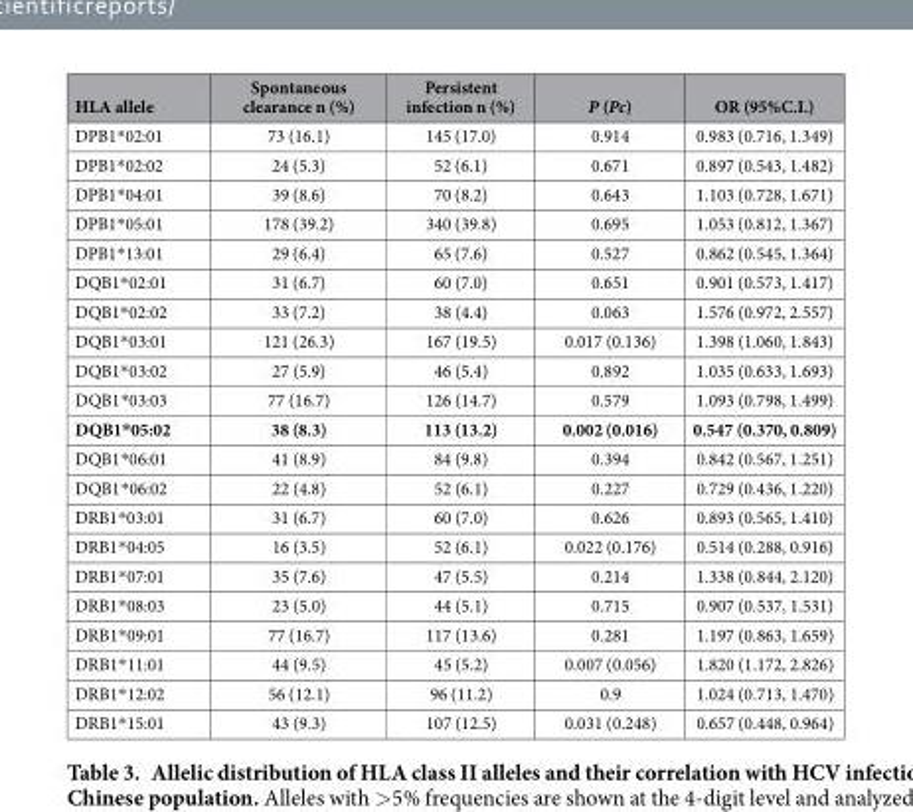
<table><thead><tr><td>HLA allele</td><td>Spontaneous clearance n (%)</td><td>Persistent infection n (%)</td><td>P (Pc)</td><td>OR (95%C.I.)</td></tr></thead><tbody><tr><td>DPB1* 02:01</td><td>73 (16.1)</td><td>145 (17.0)</td><td>0.914</td><td>0.983 (0.716, 1.349)</td></tr><tr><td>DPB1* 02:02</td><td>24 (5.3)</td><td>52 (6.1)</td><td>0.671</td><td>0.897 (0.543, 1.482)</td></tr><tr><td>DPB1* 04:01</td><td>39 (8.6)</td><td>70 (8.2)</td><td>0.643</td><td>1.103 (0.728, 1.671)</td></tr><tr><td>DPB1* 05:01</td><td>178 (39.2)</td><td>340 (39.8)</td><td>0.695</td><td>1.053 (0.812, 1.367)</td></tr><tr><td>DPB1* 13:01</td><td>29 (6.4)</td><td>65 (7.6)</td><td>0.527</td><td>0.862 (0.545, 1.364)</td></tr><tr><td>DQB1* 02:01</td><td>31 (6.7)</td><td>60 (7.0)</td><td>0.651</td><td>0.901 (0.573, 1.417)</td></tr><tr><td>DQB1* 02:02</td><td>33 (7.2)</td><td>38 (4.4)</td><td>0.063</td><td>1.576 (0.972, 2.557)</td></tr><tr><td>DQB1* 03:01</td><td>121 (26.3)</td><td>167 (19.5)</td><td>0.017 (0.136)</td><td>1.398 (1.060, 1.843)</td></tr><tr><td>DQB1* 03:02</td><td>27 (5.9)</td><td>46 (5.4)</td><td>0.892</td><td>1.035 (0.633, 1.693)</td></tr><tr><td>DQB1* 03:03</td><td>77 (16.7)</td><td>126 (14.7)</td><td>0.579</td><td>1.093 (0.798, 1.499)</td></tr><tr><td>DQB1*05:02</td><td>38 (8.3)</td><td>113 (13.2)</td><td>0.002 (0.016)</td><td>0.547 (0.370, 0.809)</td></tr><tr><td>DQB1* 06:01</td><td>41 (8.9)</td><td>84 (9.8)</td><td>0.394</td><td>0.842 (0.567, 1.251)</td></tr><tr><td>DQB1* 06:02</td><td>22 (4.8)</td><td>52 (6.1)</td><td>0.227</td><td>0.729 (0.436, 1.220)</td></tr><tr><td>DRB1* 03:01</td><td>31 (6.7)</td><td>60 (7.0)</td><td>0.626</td><td>0.893 (0.565, 1.410)</td></tr><tr><td>DRB1* 04:05</td><td>16 (3.5)</td><td>52 (6.1)</td><td>0.022 (0.176)</td><td>0.514 (0.288, 0.916)</td></tr><tr><td>DRB1* 07:01</td><td>35 (7.6)</td><td>47 (5.5)</td><td>0.214</td><td>1.338 (0.844, 2.120)</td></tr><tr><td>DRB1* 08:03</td><td>23 (5.0)</td><td>44 (5.1)</td><td>0.715</td><td>0.907 (0.537, 1.531)</td></tr><tr><td>DRB1* 09:01</td><td>77 (16.7)</td><td>117 (13.6)</td><td>0.281</td><td>1.197 (0.863, 1.659)</td></tr><tr><td>DRB1* 11:01</td><td>44 (9.5)</td><td>45 (5.2)</td><td>0.007 (0.056)</td><td>1.820 (1.172, 2.826)</td></tr><tr><td>DRB1* 12:02</td><td>56 (12.1)</td><td>96 (11.2)</td><td>0.9</td><td>1.024 (0.713, 1.470)</td></tr><tr><td>DRB1* 15:01</td><td>43 (9.3)</td><td>107 (12.5)</td><td>0.031 (0.248)</td><td>0.657 (0.448, 0.964)</td></tr></tbody></table>